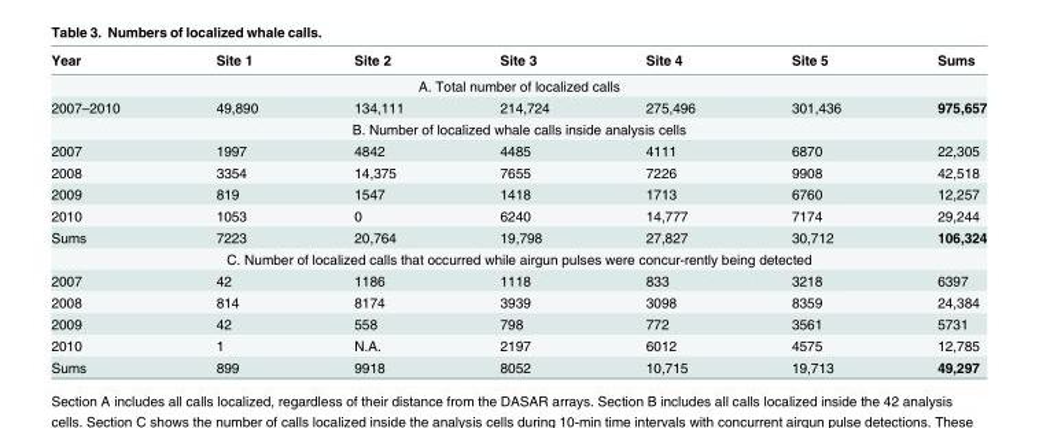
<table><thead><tr><td>Year</td><td>Site 1</td><td>Site 2</td><td>Site 3</td><td>Site 4</td><td>Site 5</td><td>Sums</td></tr></thead><tbody><tr><td colspan="7">A. Total number of localized calls</td></tr><tr><td>2007–2010</td><td>49,890</td><td>134,111</td><td>214,724</td><td>275,496</td><td>301,436</td><td>975,657</td></tr><tr><td colspan="7">B. Number of localized whale calls inside analysis cells</td></tr><tr><td>2007</td><td>1997</td><td>4842</td><td>4485</td><td>4111</td><td>6870</td><td>22,305</td></tr><tr><td>2008</td><td>3354</td><td>14,375</td><td>7655</td><td>7226</td><td>9908</td><td>42,518</td></tr><tr><td>2009</td><td>819</td><td>1547</td><td>1418</td><td>1713</td><td>6760</td><td>12,257</td></tr><tr><td>2010</td><td>1053</td><td>0</td><td>6240</td><td>14,777</td><td>7174</td><td>29,244</td></tr><tr><td>Sums</td><td>7223</td><td>20,764</td><td>19,798</td><td>27,827</td><td>30,712</td><td>106,324</td></tr><tr><td colspan="7">C. Number of localized calls that occurred while airgun pulses were concur-rently being detected</td></tr><tr><td>2007</td><td>42</td><td>1186</td><td>1118</td><td>833</td><td>3218</td><td>6397</td></tr><tr><td>2008</td><td>814</td><td>8174</td><td>3939</td><td>3098</td><td>8359</td><td>24,384</td></tr><tr><td>2009</td><td>42</td><td>558</td><td>798</td><td>772</td><td>3561</td><td>5731</td></tr><tr><td>2010</td><td>1</td><td>N.A.</td><td>2197</td><td>6012</td><td>4575</td><td>12,785</td></tr><tr><td>Sums</td><td>899</td><td>9918</td><td>8052</td><td>10,715</td><td>19,713</td><td>49,297</td></tr></tbody></table>